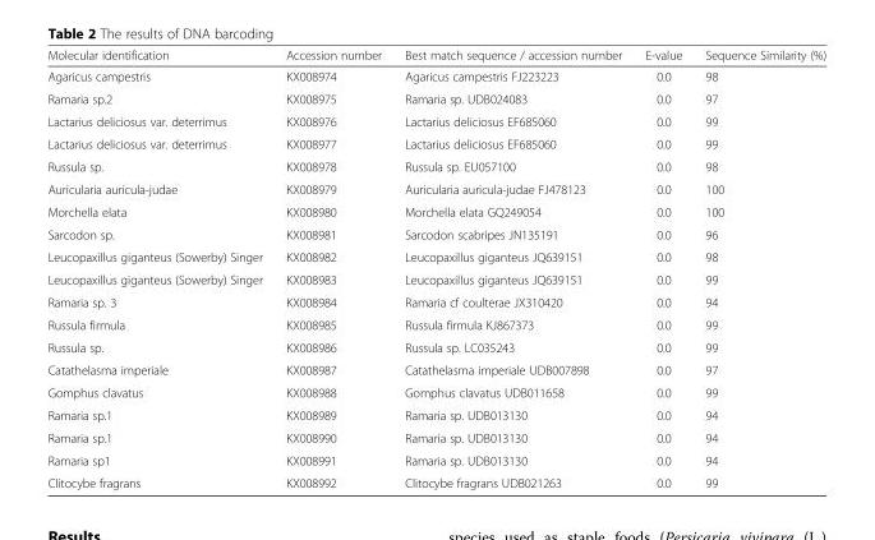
<table><thead><tr><td>Molecular identification</td><td>Accession number</td><td>Best match sequence / accession number</td><td>E-value</td><td>Sequence Similarity (%)</td></tr></thead><tbody><tr><td>Agaricus campestris</td><td>KX008974</td><td>Agaricus campestris FJ223223</td><td>0.0</td><td>98</td></tr><tr><td>Ramaria sp.2</td><td>KX008975</td><td>Ramaria sp. UDB024083</td><td>0.0</td><td>97</td></tr><tr><td>Lactarius deliciosus var. deterrimus</td><td>KX008976</td><td>Lactarius deliciosus EF685060</td><td>0.0</td><td>99</td></tr><tr><td>Lactarius deliciosus var. deterrimus</td><td>KX008977</td><td>Lactarius deliciosus EF685060</td><td>0.0</td><td>99</td></tr><tr><td>Russula sp.</td><td>KX008978</td><td>Russula sp. EU057100</td><td>0.0</td><td>98</td></tr><tr><td>Auricularia auricula-judae</td><td>KX008979</td><td>Auricularia auricula-judae FJ478123</td><td>0.0</td><td>100</td></tr><tr><td>Morchella elata</td><td>KX008980</td><td>Morchella elata GQ249054</td><td>0.0</td><td>100</td></tr><tr><td>Sarcodon sp.</td><td>KX008981</td><td>Sarcodon scabripes JN135191</td><td>0.0</td><td>96</td></tr><tr><td>Leucopaxillus giganteus (Sowerby) Singer</td><td>KX008982</td><td>Leucopaxillus giganteus JQ639151</td><td>0.0</td><td>98</td></tr><tr><td>Leucopaxillus giganteus (Sowerby) Singer</td><td>KX008983</td><td>Leucopaxillus giganteus JQ639151</td><td>0.0</td><td>99</td></tr><tr><td>Ramaria sp. 3</td><td>KX008984</td><td>Ramaria cf coulterae JX310420</td><td>0.0</td><td>94</td></tr><tr><td>Russula firmula</td><td>KX008985</td><td>Russula firmula KJ867373</td><td>0.0</td><td>99</td></tr><tr><td>Russula sp.</td><td>KX008986</td><td>Russula sp. LC035243</td><td>0.0</td><td>99</td></tr><tr><td>Catathelasma imperiale</td><td>KX008987</td><td>Catathelasma imperiale UDB007898</td><td>0.0</td><td>97</td></tr><tr><td>Gomphus clavatus</td><td>KX008988</td><td>Gomphus clavatus UDB011658</td><td>0.0</td><td>99</td></tr><tr><td>Ramaria sp.1</td><td>KX008989</td><td>Ramaria sp. UDB013130</td><td>0.0</td><td>94</td></tr><tr><td>Ramaria sp.1</td><td>KX008990</td><td>Ramaria sp. UDB013130</td><td>0.0</td><td>94</td></tr><tr><td>Ramaria sp1</td><td>KX008991</td><td>Ramaria sp. UDB013130</td><td>0.0</td><td>94</td></tr><tr><td>Clitocybe fragrans</td><td>KX008992</td><td>Clitocybe fragrans UDB021263</td><td>0.0</td><td>99</td></tr></tbody></table>